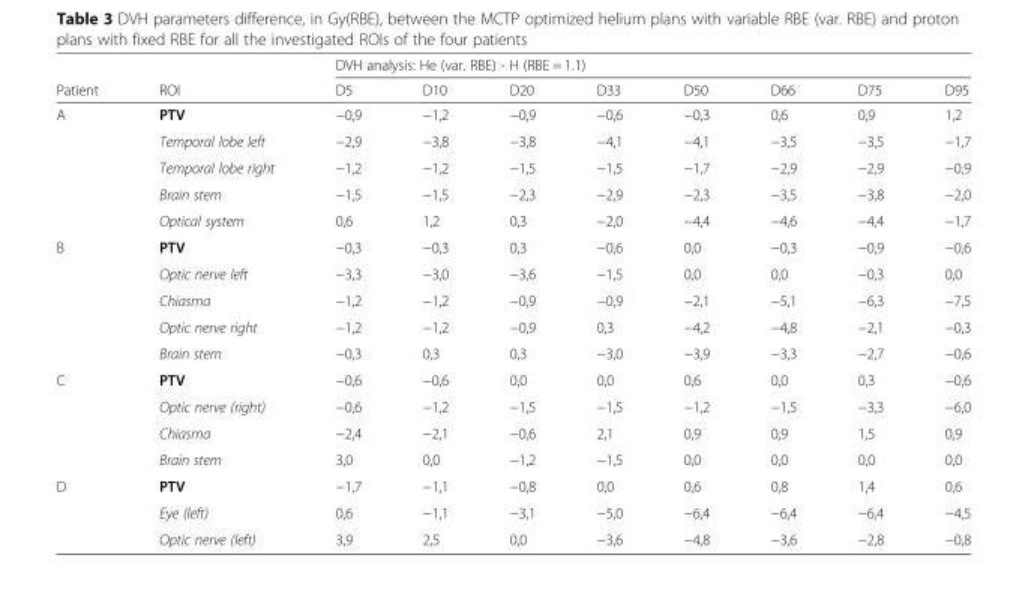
<table><thead><tr><td rowspan="2">Patient</td><td rowspan="2">ROI</td><td colspan="8">DVH analysis: He (var. RBE) - H (RBE = 1.1)</td></tr><tr><td>D5</td><td>D10</td><td>D20</td><td>D33</td><td>D50</td><td>D66</td><td>D75</td><td>D95</td></tr></thead><tbody><tr><td rowspan="5">A</td><td>PTV</td><td>−0,9</td><td>−1,2</td><td>−0,9</td><td>−0,6</td><td>−0,3</td><td>0,6</td><td>0,9</td><td>1,2</td></tr><tr><td>Temporal lobe left</td><td>−2,9</td><td>−3,8</td><td>−3,8</td><td>−4,1</td><td>−4,1</td><td>−3,5</td><td>−3,5</td><td>−1,7</td></tr><tr><td>Temporal lobe right</td><td>−1,2</td><td>−1,2</td><td>−1,5</td><td>−1,5</td><td>−1,7</td><td>−2,9</td><td>−2,9</td><td>−0,9</td></tr><tr><td>Brain stem</td><td>−1,5</td><td>−1,5</td><td>−2,3</td><td>−2,9</td><td>−2,3</td><td>−3,5</td><td>−3,8</td><td>−2,0</td></tr><tr><td>Optical system</td><td>0,6</td><td>1,2</td><td>0,3</td><td>−2,0</td><td>−4,4</td><td>−4,6</td><td>−4,4</td><td>−1,7</td></tr><tr><td rowspan="5">B</td><td>PTV</td><td>−0,3</td><td>−0,3</td><td>0,3</td><td>−0,6</td><td>0,0</td><td>−0,3</td><td>−0,9</td><td>−0,6</td></tr><tr><td>Optic nerve left</td><td>−3,3</td><td>−3,0</td><td>−3,6</td><td>−1,5</td><td>0,0</td><td>0,0</td><td>−0,3</td><td>0,0</td></tr><tr><td>Chiasma</td><td>−1,2</td><td>−1,2</td><td>−0,9</td><td>−0,9</td><td>−2,1</td><td>−5,1</td><td>−6,3</td><td>−7,5</td></tr><tr><td>Optic nerve right</td><td>−1,2</td><td>−1,2</td><td>−0,9</td><td>0,3</td><td>−4,2</td><td>−4,8</td><td>−2,1</td><td>−0,3</td></tr><tr><td>Brain stem</td><td>−0,3</td><td>0,3</td><td>0,3</td><td>−3,0</td><td>−3,9</td><td>−3,3</td><td>−2,7</td><td>−0,6</td></tr><tr><td rowspan="4">C</td><td>PTV</td><td>−0,6</td><td>−0,6</td><td>0,0</td><td>0,0</td><td>0,6</td><td>0,0</td><td>0,3</td><td>−0,6</td></tr><tr><td>Optic nerve (right)</td><td>−0,6</td><td>−1,2</td><td>−1,5</td><td>−1,5</td><td>−1,2</td><td>−1,5</td><td>−3,3</td><td>−6,0</td></tr><tr><td>Chiasma</td><td>−2,4</td><td>−2,1</td><td>−0,6</td><td>2,1</td><td>0,9</td><td>0,9</td><td>1,5</td><td>0,9</td></tr><tr><td>Brain stem</td><td>3,0</td><td>0,0</td><td>−1,2</td><td>−1,5</td><td>0,0</td><td>0,0</td><td>0,0</td><td>0,0</td></tr><tr><td rowspan="3">D</td><td>PTV</td><td>−1,7</td><td>−1,1</td><td>−0,8</td><td>0,0</td><td>0,6</td><td>0,8</td><td>1,4</td><td>0,6</td></tr><tr><td>Eye (left)</td><td>0,6</td><td>−1,1</td><td>−3,1</td><td>−5,0</td><td>−6,4</td><td>−6,4</td><td>−6,4</td><td>−4,5</td></tr><tr><td>Optic nerve (left)</td><td>3,9</td><td>2,5</td><td>0,0</td><td>−3,6</td><td>−4,8</td><td>−3,6</td><td>−2,8</td><td>−0,8</td></tr></tbody></table>